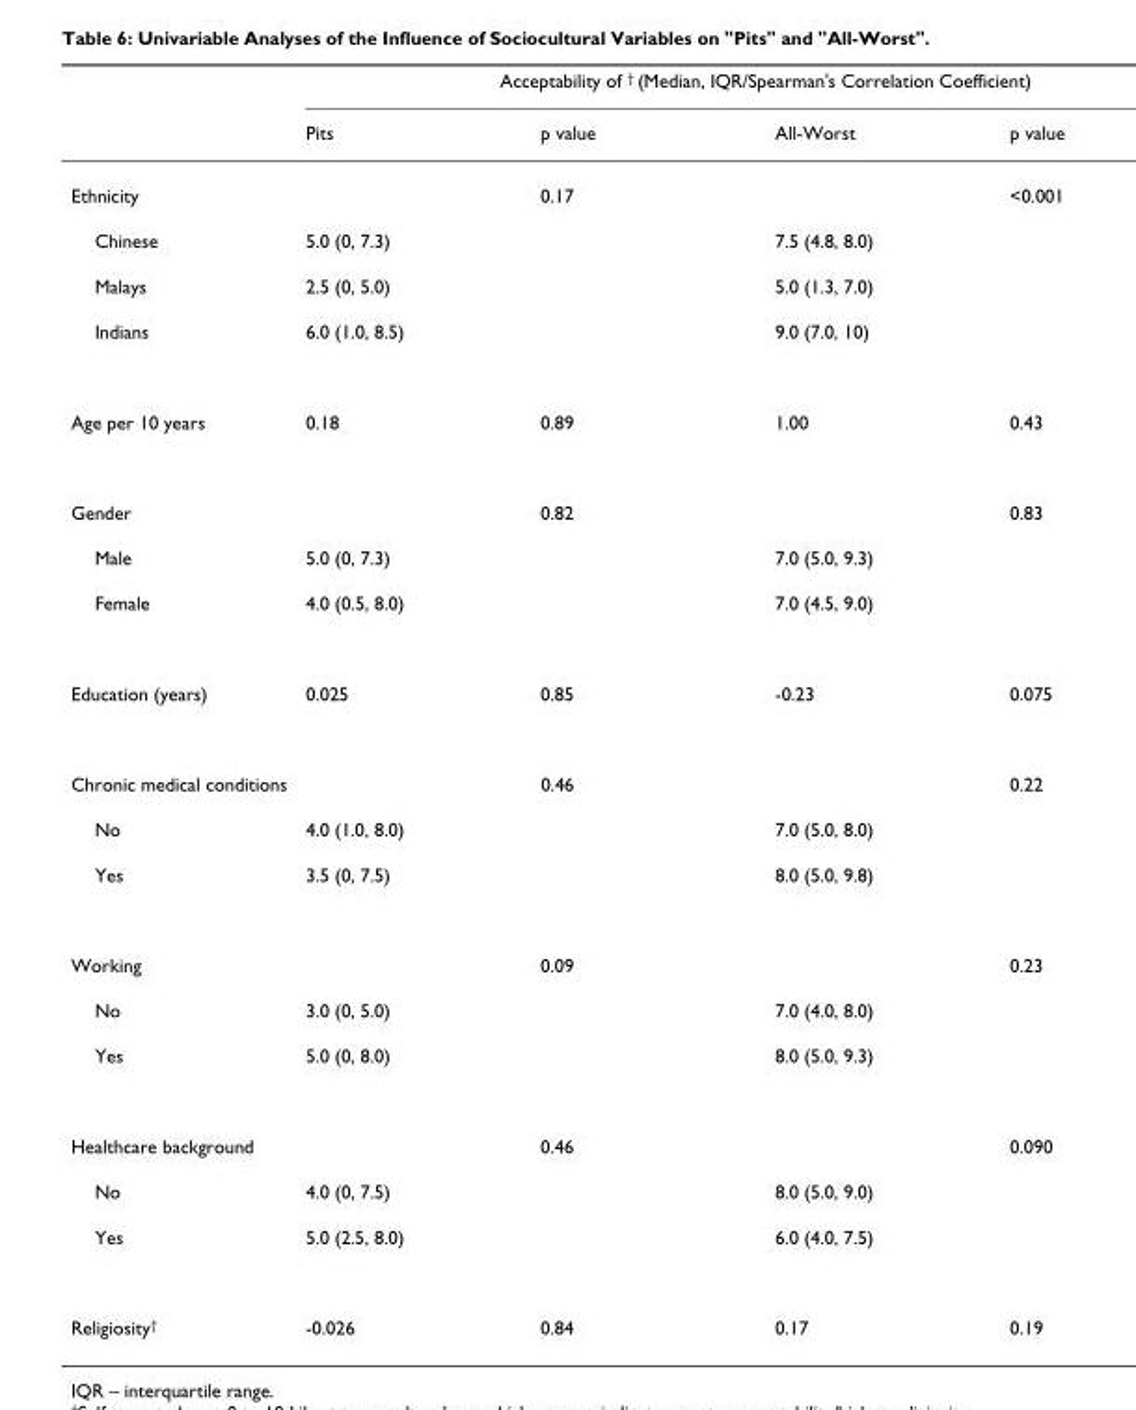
<table><thead><tr><td rowspan="2"></td><td colspan="4">Acceptability of <sup>†</sup> (Median, IQR/Spearman&#x27;s Correlation Coefficient)</td></tr><tr><td>Pits</td><td>p value</td><td>All-Worst</td><td>p value</td></tr></thead><tbody><tr><td>Ethnicity</td><td></td><td>0.17</td><td></td><td>&lt;0.001</td></tr><tr><td>Chinese</td><td>5.0 (0, 7.3)</td><td></td><td>7.5 (4.8, 8.0)</td><td></td></tr><tr><td>Malays</td><td>2.5 (0, 5.0)</td><td></td><td>5.0 (1.3, 7.0)</td><td></td></tr><tr><td>Indians</td><td>6.0 (1.0, 8.5)</td><td></td><td>9.0 (7.0, 10)</td><td></td></tr><tr><td>Age per 10 years</td><td>0.18</td><td>0.89</td><td>1.00</td><td>0.43</td></tr><tr><td>Gender</td><td></td><td>0.82</td><td></td><td>0.83</td></tr><tr><td>Male</td><td>5.0 (0, 7.3)</td><td></td><td>7.0 (5.0, 9.3)</td><td></td></tr><tr><td>Female</td><td>4.0 (0.5, 8.0)</td><td></td><td>7.0 (4.5, 9.0)</td><td></td></tr><tr><td>Education (years)</td><td>0.025</td><td>0.85</td><td>-0.23</td><td>0.075</td></tr><tr><td>Chronic medical conditions</td><td></td><td>0.46</td><td></td><td>0.22</td></tr><tr><td>No</td><td>4.0 (1.0, 8.0)</td><td></td><td>7.0 (5.0, 8.0)</td><td></td></tr><tr><td>Yes</td><td>3.5 (0, 7.5)</td><td></td><td>8.0 (5.0, 9.8)</td><td></td></tr><tr><td>Working</td><td></td><td>0.09</td><td></td><td>0.23</td></tr><tr><td>No</td><td>3.0 (0, 5.0)</td><td></td><td>7.0 (4.0, 8.0)</td><td></td></tr><tr><td>Yes</td><td>5.0 (0, 8.0)</td><td></td><td>8.0 (5.0, 9.3)</td><td></td></tr><tr><td>Healthcare background</td><td></td><td>0.46</td><td></td><td>0.090</td></tr><tr><td>No</td><td>4.0 (0, 7.5)</td><td></td><td>8.0 (5.0, 9.0)</td><td></td></tr><tr><td>Yes</td><td>5.0 (2.5, 8.0)</td><td></td><td>6.0 (4.0, 7.5)</td><td></td></tr><tr><td>Religiosity<sup>†</sup></td><td>-0.026</td><td>0.84</td><td>0.17</td><td>0.19</td></tr></tbody></table>